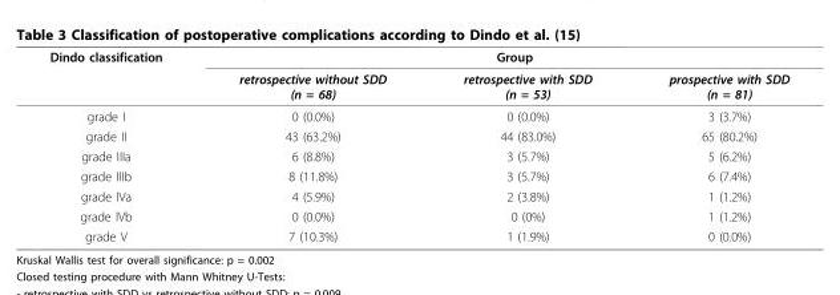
<table><thead><tr><td rowspan="2">Dindo classification</td><td colspan="3">Group</td></tr><tr><td>retrospective without SDD (n = 68)</td><td>retrospective with SDD (n = 53)</td><td>prospective with SDD (n = 81)</td></tr></thead><tbody><tr><td>grade I</td><td>0 (0.0%)</td><td>0 (0.0%)</td><td>3 (3.7%)</td></tr><tr><td>grade II</td><td>43 (63.2%)</td><td>44 (83.0%)</td><td>65 (80.2%)</td></tr><tr><td>grade IIIa</td><td>6 (8.8%)</td><td>3 (5.7%)</td><td>5 (6.2%)</td></tr><tr><td>grade IIIb</td><td>8 (11.8%)</td><td>3 (5.7%)</td><td>6 (7.4%)</td></tr><tr><td>grade IVa</td><td>4 (5.9%)</td><td>2 (3.8%)</td><td>1 (1.2%)</td></tr><tr><td>grade IVb</td><td>0 (0.0%)</td><td>0 (0%)</td><td>1 (1.2%)</td></tr><tr><td>grade V</td><td>7 (10.3%)</td><td>1 (1.9%)</td><td>0 (0.0%)</td></tr></tbody></table>